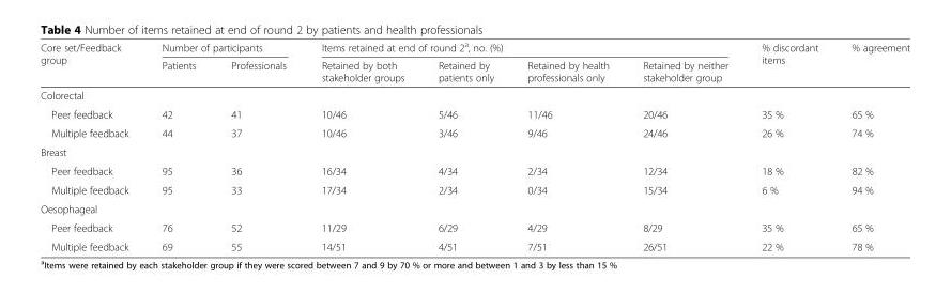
<table><thead><tr><td rowspan="2">Core set/Feedback group</td><td colspan="2">Number of participants</td><td colspan="4">Items retained at end of round 2<sup>a</sup>, no. (%)</td><td rowspan="2">% discordant items</td><td rowspan="2">% agreement</td></tr><tr><td>Patients</td><td>Professionals</td><td>Retained by both stakeholder groups</td><td>Retained by patients only</td><td>Retained by health professionals only</td><td>Retained by neither stakeholder group</td></tr></thead><tbody><tr><td colspan="9">Colorectal</td></tr><tr><td>Peer feedback</td><td>42</td><td>41</td><td>10/46</td><td>5/46</td><td>11/46</td><td>20/46</td><td>35 %</td><td>65 %</td></tr><tr><td>Multiple feedback</td><td>44</td><td>37</td><td>10/46</td><td>3/46</td><td>9/46</td><td>24/46</td><td>26 %</td><td>74 %</td></tr><tr><td colspan="9">Breast</td></tr><tr><td>Peer feedback</td><td>95</td><td>36</td><td>16/34</td><td>4/34</td><td>2/34</td><td>12/34</td><td>18 %</td><td>82 %</td></tr><tr><td>Multiple feedback</td><td>95</td><td>33</td><td>17/34</td><td>2/34</td><td>0/34</td><td>15/34</td><td>6 %</td><td>94 %</td></tr><tr><td colspan="9">Oesophageal</td></tr><tr><td>Peer feedback</td><td>76</td><td>52</td><td>11/29</td><td>6/29</td><td>4/29</td><td>8/29</td><td>35 %</td><td>65 %</td></tr><tr><td>Multiple feedback</td><td>69</td><td>55</td><td>14/51</td><td>4/51</td><td>7/51</td><td>26/51</td><td>22 %</td><td>78 %</td></tr></tbody></table>